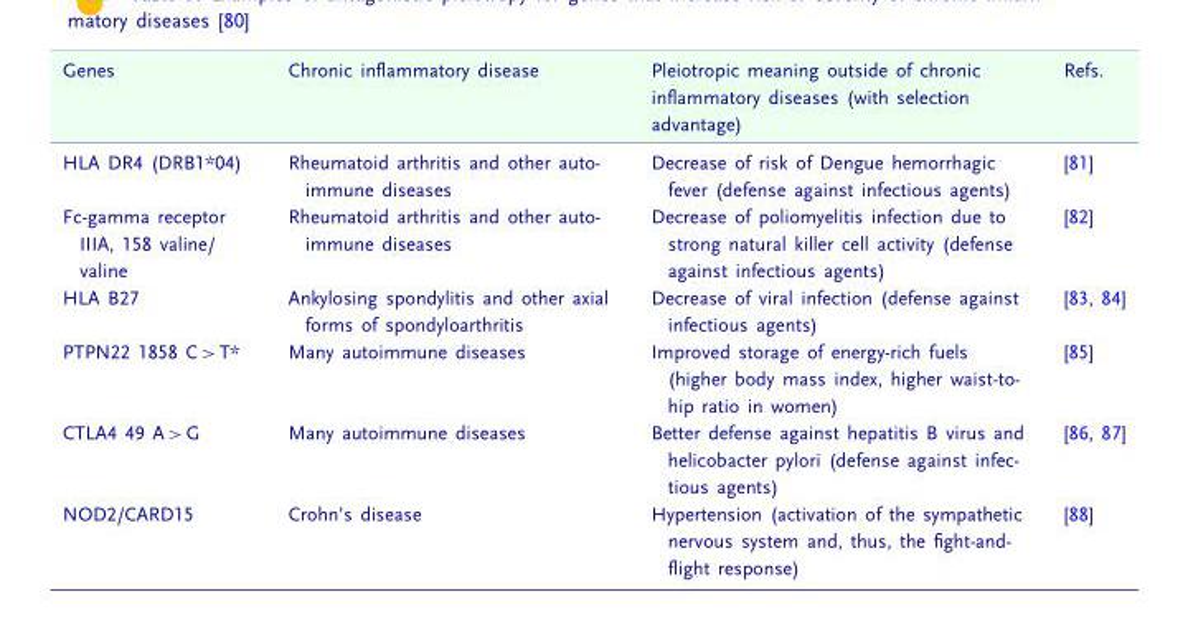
<table><thead><tr><td>Genes</td><td>Chronic inflammatory disease</td><td>Pleiotropic meaning outside of chronic inflammatory diseases (with selection advantage)</td><td>Refs.</td></tr></thead><tbody><tr><td>HLA DR4 (DRB1*04)</td><td>Rheumatoid arthritis and other auto- immune diseases</td><td>Decrease of risk of Dengue hemorrhagic fever (defense against infectious agents)</td><td>[81]</td></tr><tr><td>Fc-gamma receptor IIIA, 158 valine/ valine</td><td>Rheumatoid arthritis and other auto- immune diseases</td><td>Decrease of poliomyelitis infection due to strong natural killer cell activity (defense against infectious agents)</td><td>[82]</td></tr><tr><td>HLA B27</td><td>Ankylosing spondylitis and other axial forms of spondyloarthritis</td><td>Decrease of viral infection (defense against infectious agents)</td><td>[83, 84]</td></tr><tr><td>PTPN22 1858 C &gt; T*</td><td>Many autoimmune diseases</td><td>Improved storage of energy-rich fuels (higher body mass index, higher waist-to- hip ratio in women)</td><td>[85]</td></tr><tr><td>CTLA4 49 A &gt; G</td><td>Many autoimmune diseases</td><td>Better defense against hepatitis B virus and helicobacter pylori (defense against infec- tious agents)</td><td>[86, 87]</td></tr><tr><td>NOD2/CARD15</td><td>Crohn’s disease</td><td>Hypertension (activation of the sympathetic nervous system and, thus, the fight-and- flight response)</td><td>[88]</td></tr></tbody></table>